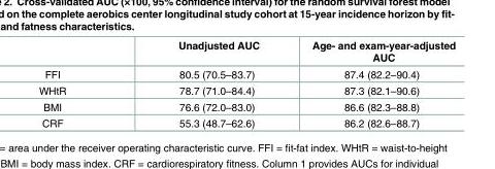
<table><thead><tr><td></td><td>Unadjusted AUC</td><td>Age- and exam-year-adjusted AUC</td></tr></thead><tbody><tr><td>FFI</td><td>80.5 (70.5–83.7)</td><td>87.4 (82.2–90.4)</td></tr><tr><td>WHtR</td><td>78.7 (71.0–84.4)</td><td>87.3 (82.1–90.6)</td></tr><tr><td>BMI</td><td>76.6 (72.0–83.0)</td><td>86.6 (82.3–88.8)</td></tr><tr><td>CRF</td><td>55.3 (48.7–62.6)</td><td>86.2 (82.6–88.7)</td></tr></tbody></table>